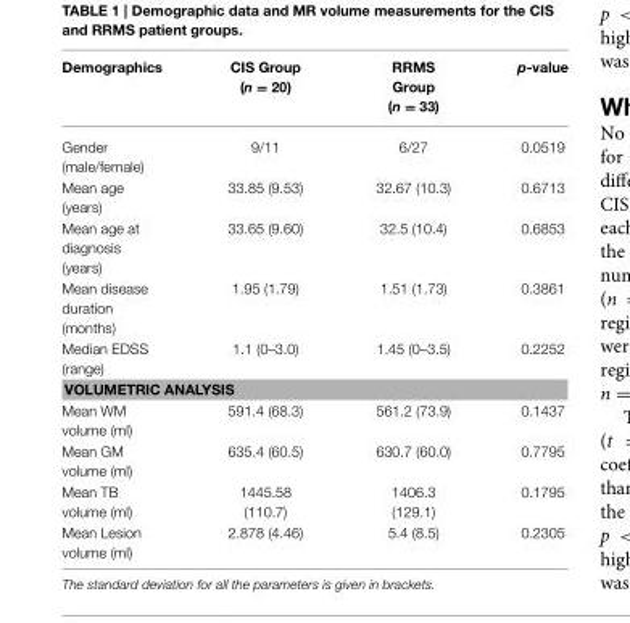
<table><thead><tr><td>Demographics</td><td>CIS Group (n = 20)</td><td>RRMS Group (n = 33)</td><td>p-value</td></tr></thead><tbody><tr><td>Gender (male/female)</td><td>9/11</td><td>6/27</td><td>0.0519</td></tr><tr><td>Mean age (years)</td><td>33.85 (9.53)</td><td>32.67 (10.3)</td><td>0.6713</td></tr><tr><td>Mean age at diagnosis (years)</td><td>33.65 (9.60)</td><td>32.5 (10.4)</td><td>0.6853</td></tr><tr><td>Mean disease duration (months)</td><td>1.95 (1.79)</td><td>1.51 (1.73)</td><td>0.3861</td></tr><tr><td>Median EDSS (range)</td><td>1.1 (0–3.0)</td><td>1.45 (0–3.5)</td><td>0.2252</td></tr><tr><td colspan="4">VOLUMETRIC ANALYSIS</td></tr><tr><td>Mean WM volume (ml)</td><td>591.4 (68.3)</td><td>561.2 (73.9)</td><td>0.1437</td></tr><tr><td>Mean GM volume (ml)</td><td>635.4 (60.5)</td><td>630.7 (60.0)</td><td>0.7795</td></tr><tr><td>Mean TB volume (ml)</td><td>1445.58 (110.7)</td><td>1406.3 (129.1)</td><td>0.1795</td></tr><tr><td>Mean Lesion volume (ml)</td><td>2.878 (4.46)</td><td>5.4 (8.5)</td><td>0.2305</td></tr></tbody></table>